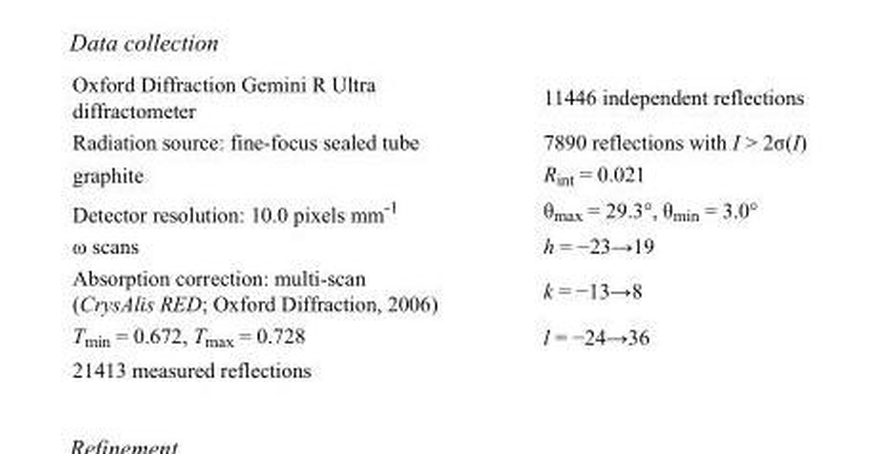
<table><tbody><tr><td>Oxford Diffraction Gemini R Ultra diffractometer</td><td>11446 independent reflections</td></tr><tr><td>Radiation source: fine-focus sealed tube</td><td>7890 reflections with I &gt; 2σ(I)</td></tr><tr><td>graphite</td><td>R<sub>int</sub> = 0.021</td></tr><tr><td>Detector resolution: 10.0 pixels mm<sup>-1</sup></td><td>θ<sub>max</sub> = 29.3°, θ<sub>min</sub> = 3.0°</td></tr><tr><td>ω scans</td><td>h = −23→19</td></tr><tr><td>Absorption correction: multi-scan (CrysAlis RED; Oxford Diffraction, 2006)</td><td>k = −13→8</td></tr><tr><td>T<sub>min</sub> = 0.672, T<sub>max</sub> = 0.728</td><td>l = −24→36</td></tr><tr><td>21413 measured reflections</td><td></td></tr></tbody></table>